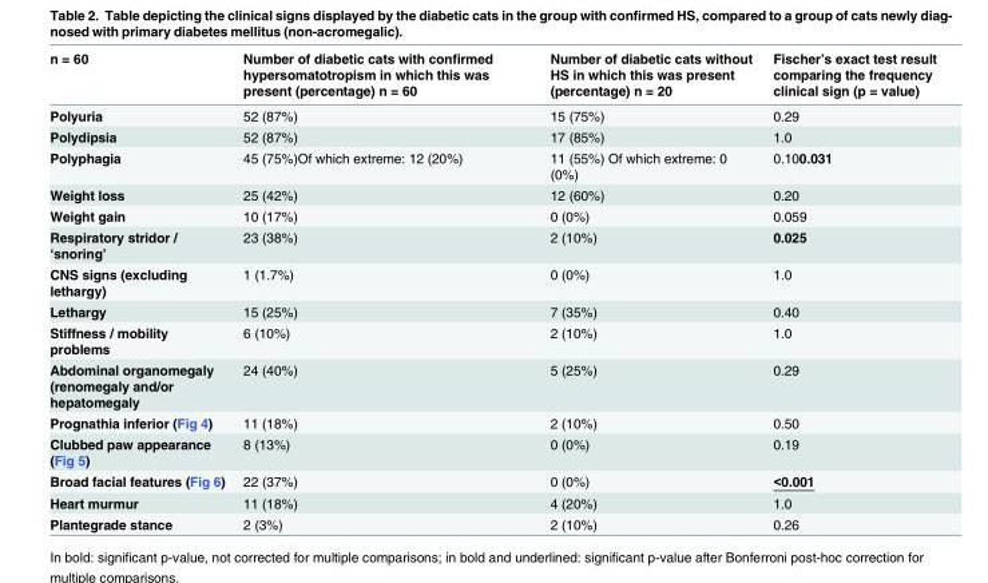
<table><thead><tr><td>n = 60</td><td>Number of diabetic cats with confirmed hypersomatotropism in which this was present (percentage) n = 60</td><td>Number of diabetic cats without HS in which this was present (percentage) n = 20</td><td>Fischer’s exact test result comparing the frequency clinical sign (p = value)</td></tr></thead><tbody><tr><td>Polyuria</td><td>52 (87%)</td><td>15 (75%)</td><td>0.29</td></tr><tr><td>Polydipsia</td><td>52 (87%)</td><td>17 (85%)</td><td>1.0</td></tr><tr><td>Polyphagia</td><td>45 (75%)Of which extreme: 12 (20%)</td><td>11 (55%) Of which extreme: 0 (0%)</td><td>0.100.031</td></tr><tr><td>Weight loss</td><td>25 (42%)</td><td>12 (60%)</td><td>0.20</td></tr><tr><td>Weight gain</td><td>10 (17%)</td><td>0 (0%)</td><td>0.059</td></tr><tr><td>Respiratory stridor / ‘snoring’</td><td>23 (38%)</td><td>2 (10%)</td><td>0.025</td></tr><tr><td>CNS signs (excluding lethargy)</td><td>1 (1.7%)</td><td>0 (0%)</td><td>1.0</td></tr><tr><td>Lethargy</td><td>15 (25%)</td><td>7 (35%)</td><td>0.40</td></tr><tr><td>Stiffness / mobility problems</td><td>6 (10%)</td><td>2 (10%)</td><td>1.0</td></tr><tr><td>Abdominal organomegaly (renomegaly and/or hepatomegaly</td><td>24 (40%)</td><td>5 (25%)</td><td>0.29</td></tr><tr><td>Prognathia inferior (Fig 4)</td><td>11 (18%)</td><td>2 (10%)</td><td>0.50</td></tr><tr><td>Clubbed paw appearance (Fig 5)</td><td>8 (13%)</td><td>0 (0%)</td><td>0.19</td></tr><tr><td>Broad facial features (Fig 6)</td><td>22 (37%)</td><td>0 (0%)</td><td>&lt;0.001</td></tr><tr><td>Heart murmur</td><td>11 (18%)</td><td>4 (20%)</td><td>1.0</td></tr><tr><td>Plantegrade stance</td><td>2 (3%)</td><td>2 (10%)</td><td>0.26</td></tr></tbody></table>